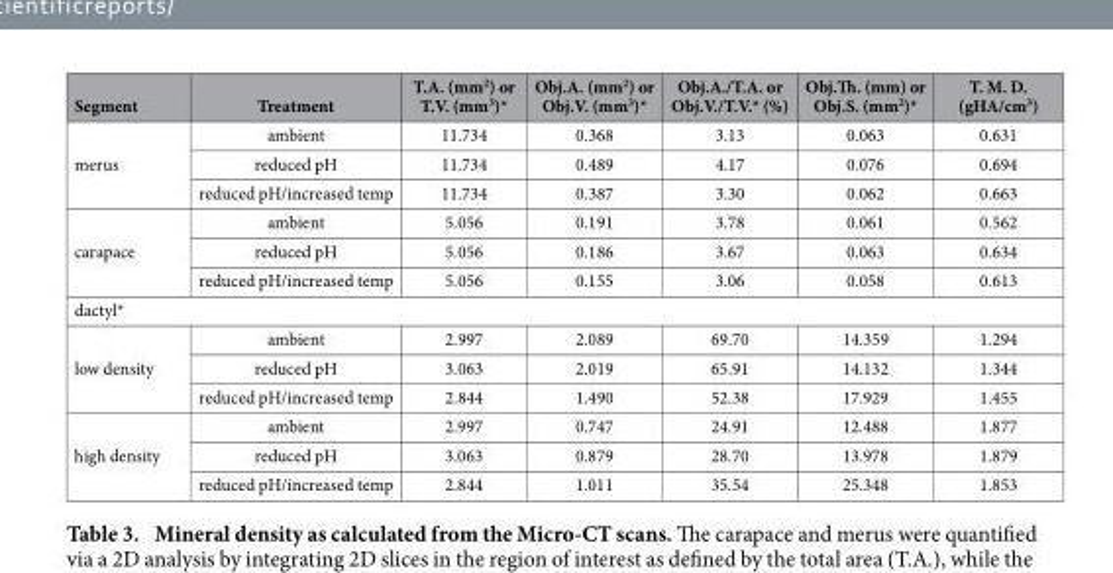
<table><thead><tr><td>Segment</td><td>Treatment</td><td>T.A. (mm<sup>2</sup>) or T.V. (mm<sup>3</sup>)*</td><td>Obj.A. (mm<sup>2</sup>) or Obj.V. (mm<sup>3</sup>)*</td><td>Obj.A./T.A. or Obj.V./T.V.* (%)</td><td>Obj.Th. (mm) or Obj.S. (mm<sup>2</sup>)*</td><td>T. M. D. (gHA/cm<sup>3</sup>)</td></tr></thead><tbody><tr><td rowspan="3">merus</td><td>ambient</td><td>11.734</td><td>0.368</td><td>3.13</td><td>0.063</td><td>0.631</td></tr><tr><td>reduced pH</td><td>11.734</td><td>0.489</td><td>4.17</td><td>0.076</td><td>0.694</td></tr><tr><td>reduced pH/increased temp</td><td>11.734</td><td>0.387</td><td>3.30</td><td>0.062</td><td>0.663</td></tr><tr><td rowspan="3">carapace</td><td>ambient</td><td>5.056</td><td>0.191</td><td>3.78</td><td>0.061</td><td>0.562</td></tr><tr><td>reduced pH</td><td>5.056</td><td>0.186</td><td>3.67</td><td>0.063</td><td>0.634</td></tr><tr><td>reduced pH/increased temp</td><td>5.056</td><td>0.155</td><td>3.06</td><td>0.058</td><td>0.613</td></tr><tr><td colspan="7">dactyl*</td></tr><tr><td rowspan="3">low density</td><td>ambient</td><td>2.997</td><td>2.089</td><td>69.70</td><td>14.359</td><td>1.294</td></tr><tr><td>reduced pH</td><td>3.063</td><td>2.019</td><td>65.91</td><td>14.132</td><td>1.344</td></tr><tr><td>reduced pH/increased temp</td><td>2.844</td><td>1.490</td><td>52.38</td><td>17.929</td><td>1.455</td></tr><tr><td rowspan="3">high density</td><td>ambient</td><td>2.997</td><td>0.747</td><td>24.91</td><td>12.488</td><td>1.877</td></tr><tr><td>reduced pH</td><td>3.063</td><td>0.879</td><td>28.70</td><td>13.978</td><td>1.879</td></tr><tr><td>reduced pH/increased temp</td><td>2.844</td><td>1.011</td><td>35.54</td><td>25.348</td><td>1.853</td></tr></tbody></table>